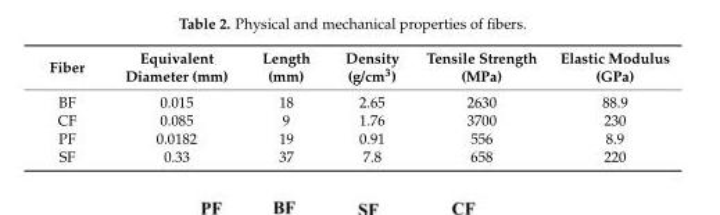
<table><thead><tr><td>Fiber</td><td>Equivalent Diameter (mm)</td><td>Length (mm)</td><td>Density (g/cm<sup>3</sup>)</td><td>Tensile Strength (MPa)</td><td>Elastic Modulus (GPa)</td></tr></thead><tbody><tr><td>BF</td><td>0.015</td><td>18</td><td>2.65</td><td>2630</td><td>88.9</td></tr><tr><td>CF</td><td>0.085</td><td>9</td><td>1.76</td><td>3700</td><td>230</td></tr><tr><td>PF</td><td>0.0182</td><td>19</td><td>0.91</td><td>556</td><td>8.9</td></tr><tr><td>SF</td><td>0.33</td><td>37</td><td>7.8</td><td>658</td><td>220</td></tr></tbody></table>